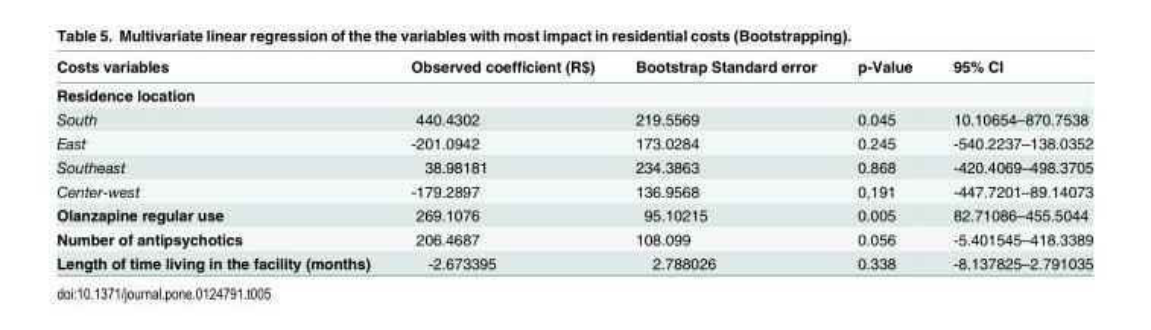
<table><thead><tr><td>Costs variables</td><td>Observed coefficient (R$)</td><td>Bootstrap Standard error</td><td>p-Value</td><td>95% CI</td></tr></thead><tbody><tr><td colspan="5">Residence location</td></tr><tr><td>South</td><td>440.4302</td><td>219.5569</td><td>0.045</td><td>10.10654–870.7538</td></tr><tr><td>East</td><td>-201.0942</td><td>173.0284</td><td>0.245</td><td>-540.2237–138.0352</td></tr><tr><td>Southeast</td><td>38.98181</td><td>234.3863</td><td>0.868</td><td>-420.4069–498.3705</td></tr><tr><td>Center-west</td><td>-179.2897</td><td>136.9568</td><td>0,191</td><td>-447.7201–89.14073</td></tr><tr><td>Olanzapine regular use</td><td>269.1076</td><td>95.10215</td><td>0.005</td><td>82.71086–455.5044</td></tr><tr><td>Number of antipsychotics</td><td>206.4687</td><td>108.099</td><td>0.056</td><td>-5.401545–418.3389</td></tr><tr><td>Length of time living in the facility (months)</td><td>-2.673395</td><td>2.788026</td><td>0.338</td><td>-8.137825–2.791035</td></tr></tbody></table>